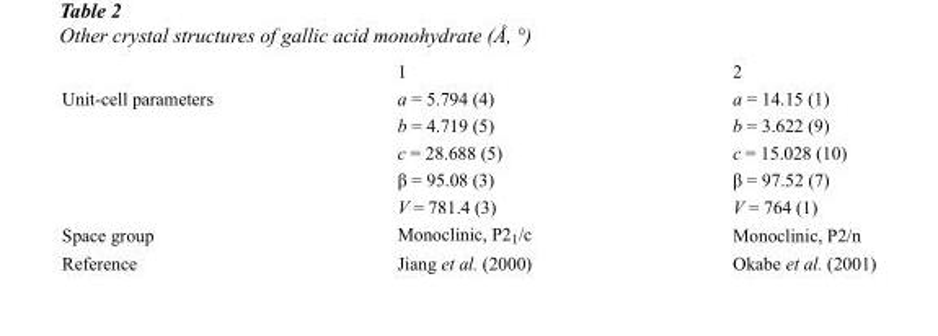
<table><thead><tr><td></td><td>1</td><td>2</td></tr></thead><tbody><tr><td rowspan="5">Unit-cell parameters</td><td>a = 5.794 (4)</td><td>a = 14.15 (1)</td></tr><tr><td>b = 4.719 (5)</td><td>b = 3.622 (9)</td></tr><tr><td>c = 28.688 (5)</td><td>c = 15.028 (10)</td></tr><tr><td>β = 95.08 (3)</td><td>β = 97.52 (7)</td></tr><tr><td>V = 781.4 (3)</td><td>V = 764 (1)</td></tr><tr><td>Space group</td><td>Monoclinic, P2<sub>1</sub>/c</td><td>Monoclinic, P2/n</td></tr><tr><td>Reference</td><td>Jiang et al. (2000)</td><td>Okabe et al. (2001)</td></tr></tbody></table>